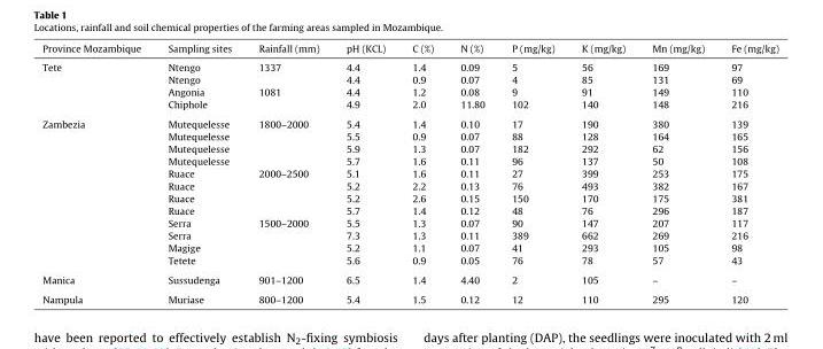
<table><thead><tr><td>Province Mozambique</td><td>Sampling sites</td><td>Rainfall (mm)</td><td>pH (KCL)</td><td>C (%)</td><td>N (%)</td><td>P (mg/kg)</td><td>K (mg/kg)</td><td>Mn (mg/kg)</td><td>Fe (mg/kg)</td></tr></thead><tbody><tr><td rowspan="4">Tete</td><td>Ntengo</td><td>1337</td><td>4.4</td><td>1.4</td><td>0.09</td><td>5</td><td>56</td><td>169</td><td>97</td></tr><tr><td>Ntengo</td><td></td><td>4.4</td><td>0.9</td><td>0.07</td><td>4</td><td>85</td><td>131</td><td>69</td></tr><tr><td>Angonia</td><td>1081</td><td>4.4</td><td>1.2</td><td>0.08</td><td>9</td><td>91</td><td>149</td><td>110</td></tr><tr><td>Chiphole</td><td></td><td>4.9</td><td>2.0</td><td>11.80</td><td>102</td><td>140</td><td>148</td><td>216</td></tr><tr><td rowspan="12">Zambezia</td><td>Mutequelesse</td><td>1800–2000</td><td>5.4</td><td>1.4</td><td>0.10</td><td>17</td><td>190</td><td>380</td><td>139</td></tr><tr><td>Mutequelesse</td><td></td><td>5.5</td><td>0.9</td><td>0.07</td><td>88</td><td>128</td><td>164</td><td>165</td></tr><tr><td>Mutequelesse</td><td></td><td>5.9</td><td>1.3</td><td>0.07</td><td>182</td><td>292</td><td>62</td><td>156</td></tr><tr><td>Mutequelesse</td><td></td><td>5.7</td><td>1.6</td><td>0.11</td><td>96</td><td>137</td><td>50</td><td>108</td></tr><tr><td>Ruace</td><td>2000–2500</td><td>5.1</td><td>1.6</td><td>0.11</td><td>27</td><td>399</td><td>253</td><td>175</td></tr><tr><td>Ruace</td><td></td><td>5.2</td><td>2.2</td><td>0.13</td><td>76</td><td>493</td><td>382</td><td>167</td></tr><tr><td>Ruace</td><td></td><td>5.2</td><td>2.6</td><td>0.15</td><td>150</td><td>170</td><td>175</td><td>381</td></tr><tr><td>Ruace</td><td></td><td>5.7</td><td>1.4</td><td>0.12</td><td>48</td><td>76</td><td>296</td><td>187</td></tr><tr><td>Serra</td><td>1500–2000</td><td>5.5</td><td>1.3</td><td>0.07</td><td>90</td><td>147</td><td>207</td><td>117</td></tr><tr><td>Serra</td><td></td><td>7.3</td><td>1.3</td><td>0.11</td><td>389</td><td>662</td><td>269</td><td>216</td></tr><tr><td>Magige</td><td></td><td>5.2</td><td>1.1</td><td>0.07</td><td>41</td><td>293</td><td>105</td><td>98</td></tr><tr><td>Tetete</td><td></td><td>5.6</td><td>0.9</td><td>0.05</td><td>76</td><td>78</td><td>57</td><td>43</td></tr><tr><td>Manica</td><td>Sussudenga</td><td>901–1200</td><td>6.5</td><td>1.4</td><td>4.40</td><td>2</td><td>105</td><td>–</td><td>–</td></tr><tr><td>Nampula</td><td>Muriase</td><td>800–1200</td><td>5.4</td><td>1.5</td><td>0.12</td><td>12</td><td>110</td><td>295</td><td>120</td></tr></tbody></table>